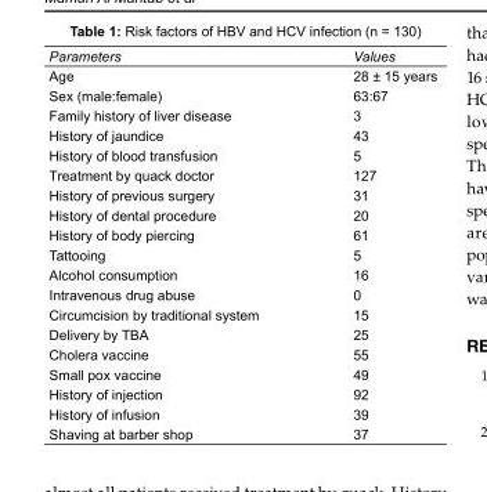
<table><tbody><tr><td>Parameters</td><td>Values</td></tr><tr><td>Age</td><td>28 ± 15 years</td></tr><tr><td>Sex (male:female)</td><td>63:67</td></tr><tr><td>Family history of liver disease</td><td>3</td></tr><tr><td>History of jaundice</td><td>43</td></tr><tr><td>History of blood transfusion</td><td>5</td></tr><tr><td>Treatment by quack doctor</td><td>127</td></tr><tr><td>History of previous surgery</td><td>31</td></tr><tr><td>History of dental procedure</td><td>20</td></tr><tr><td>History of body piercing</td><td>61</td></tr><tr><td>Tattooing</td><td>5</td></tr><tr><td>Alcohol consumption</td><td>16</td></tr><tr><td>Intravenous drug abuse</td><td>0</td></tr><tr><td>Circumcision by traditional system</td><td>15</td></tr><tr><td>Delivery by TBA</td><td>25</td></tr><tr><td>Cholera vaccine</td><td>55</td></tr><tr><td>Small pox vaccine</td><td>49</td></tr><tr><td>History of injection</td><td>92</td></tr><tr><td>History of infusion</td><td>39</td></tr><tr><td>Shaving at barber shop</td><td>37</td></tr></tbody></table>